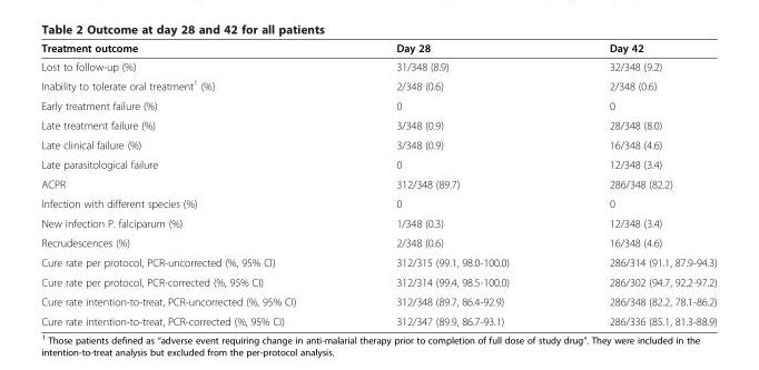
<table><thead><tr><td>Treatment outcome</td><td>Day 28</td><td>Day 42</td></tr></thead><tbody><tr><td>Lost to follow-up (%)</td><td>31/348 (8.9)</td><td>32/348 (9.2)</td></tr><tr><td>Inability to tolerate oral treatment<sup>1</sup> (%)</td><td>2/348 (0.6)</td><td>2/348 (0.6)</td></tr><tr><td>Early treatment failure (%)</td><td>0</td><td>0</td></tr><tr><td>Late treatment failure (%)</td><td>3/348 (0.9)</td><td>28/348 (8.0)</td></tr><tr><td>Late clinical failure (%)</td><td>3/348 (0.9)</td><td>16/348 (4.6)</td></tr><tr><td>Late parasitological failure</td><td>0</td><td>12/348 (3.4)</td></tr><tr><td>ACPR</td><td>312/348 (89.7)</td><td>286/348 (82.2)</td></tr><tr><td>Infection with different species (%)</td><td>0</td><td>0</td></tr><tr><td>New infection P. falciparum (%)</td><td>1/348 (0.3)</td><td>12/348 (3.4)</td></tr><tr><td>Recrudescences (%)</td><td>2/348 (0.6)</td><td>16/348 (4.6)</td></tr><tr><td>Cure rate per protocol, PCR-uncorrected (%, 95% CI)</td><td>312/315 (99.1, 98.0-100.0)</td><td>286/314 (91.1, 87.9-94.3)</td></tr><tr><td>Cure rate per protocol, PCR-corrected (%, 95% CI)</td><td>312/314 (99.4, 98.5-100.0)</td><td>286/302 (94.7, 92.2-97.2)</td></tr><tr><td>Cure rate intention-to-treat, PCR-uncorrected (%, 95% CI)</td><td>312/348 (89.7, 86.4-92.9)</td><td>286/348 (82.2, 78.1-86.2)</td></tr><tr><td>Cure rate intention-to-treat, PCR-corrected (%, 95% CI)</td><td>312/347 (89.9, 86.7-93.1)</td><td>286/336 (85.1, 81.3-88.9)</td></tr></tbody></table>